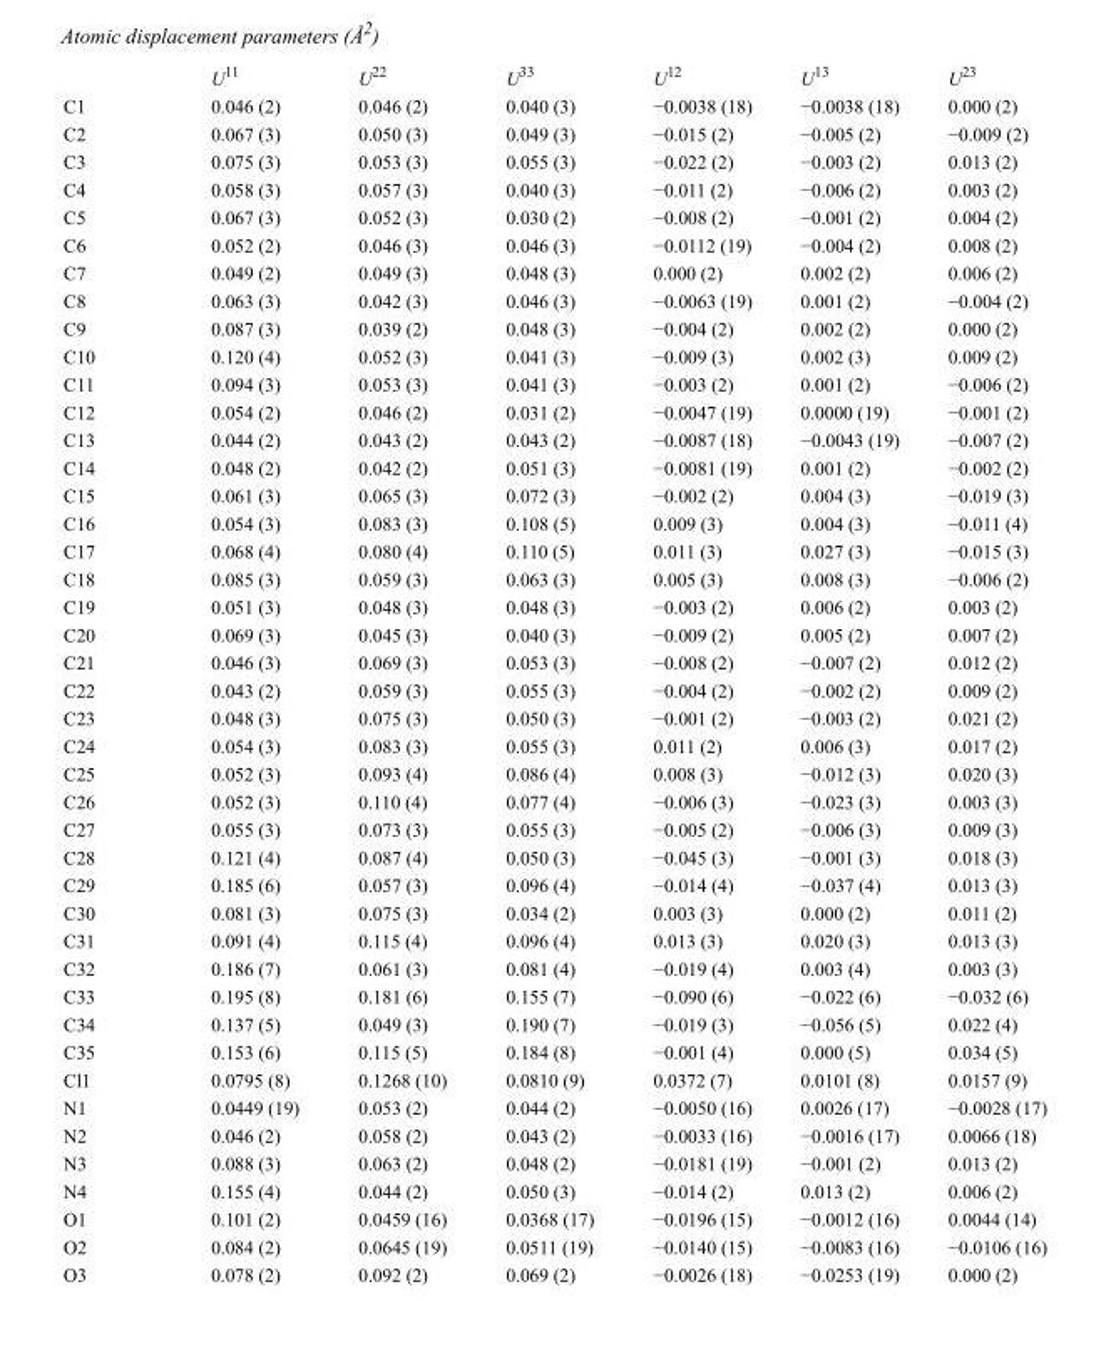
<table><thead><tr><td></td><td>U<sup>11</sup></td><td>U<sup>22</sup></td><td>U<sup>33</sup></td><td>U<sup>12</sup></td><td>U<sup>13</sup></td><td>U<sup>23</sup></td></tr></thead><tbody><tr><td>C1</td><td>0.046 (2)</td><td>0.046 (2)</td><td>0.040 (3)</td><td>−0.0038 (18)</td><td>−0.0038 (18)</td><td>0.000 (2)</td></tr><tr><td>C2</td><td>0.067 (3)</td><td>0.050 (3)</td><td>0.049 (3)</td><td>−0.015 (2)</td><td>−0.005 (2)</td><td>−0.009 (2)</td></tr><tr><td>C3</td><td>0.075 (3)</td><td>0.053 (3)</td><td>0.055 (3)</td><td>−0.022 (2)</td><td>−0.003 (2)</td><td>0.013 (2)</td></tr><tr><td>C4</td><td>0.058 (3)</td><td>0.057 (3)</td><td>0.040 (3)</td><td>−0.011 (2)</td><td>−0.006 (2)</td><td>0.003 (2)</td></tr><tr><td>C5</td><td>0.067 (3)</td><td>0.052 (3)</td><td>0.030 (2)</td><td>−0.008 (2)</td><td>−0.001 (2)</td><td>0.004 (2)</td></tr><tr><td>C6</td><td>0.052 (2)</td><td>0.046 (3)</td><td>0.046 (3)</td><td>−0.0112 (19)</td><td>−0.004 (2)</td><td>0.008 (2)</td></tr><tr><td>C7</td><td>0.049 (2)</td><td>0.049 (3)</td><td>0.048 (3)</td><td>0.000 (2)</td><td>0.002 (2)</td><td>0.006 (2)</td></tr><tr><td>C8</td><td>0.063 (3)</td><td>0.042 (3)</td><td>0.046 (3)</td><td>−0.0063 (19)</td><td>0.001 (2)</td><td>−0.004 (2)</td></tr><tr><td>C9</td><td>0.087 (3)</td><td>0.039 (2)</td><td>0.048 (3)</td><td>−0.004 (2)</td><td>0.002 (2)</td><td>0.000 (2)</td></tr><tr><td>C10</td><td>0.120 (4)</td><td>0.052 (3)</td><td>0.041 (3)</td><td>−0.009 (3)</td><td>0.002 (3)</td><td>0.009 (2)</td></tr><tr><td>C11</td><td>0.094 (3)</td><td>0.053 (3)</td><td>0.041 (3)</td><td>−0.003 (2)</td><td>0.001 (2)</td><td>−0.006 (2)</td></tr><tr><td>C12</td><td>0.054 (2)</td><td>0.046 (2)</td><td>0.031 (2)</td><td>−0.0047 (19)</td><td>0.0000 (19)</td><td>−0.001 (2)</td></tr><tr><td>C13</td><td>0.044 (2)</td><td>0.043 (2)</td><td>0.043 (2)</td><td>−0.0087 (18)</td><td>−0.0043 (19)</td><td>−0.007 (2)</td></tr><tr><td>C14</td><td>0.048 (2)</td><td>0.042 (2)</td><td>0.051 (3)</td><td>−0.0081 (19)</td><td>0.001 (2)</td><td>−0.002 (2)</td></tr><tr><td>C15</td><td>0.061 (3)</td><td>0.065 (3)</td><td>0.072 (3)</td><td>−0.002 (2)</td><td>0.004 (3)</td><td>−0.019 (3)</td></tr><tr><td>C16</td><td>0.054 (3)</td><td>0.083 (3)</td><td>0.108 (5)</td><td>0.009 (3)</td><td>0.004 (3)</td><td>−0.011 (4)</td></tr><tr><td>C17</td><td>0.068 (4)</td><td>0.080 (4)</td><td>0.110 (5)</td><td>0.011 (3)</td><td>0.027 (3)</td><td>−0.015 (3)</td></tr><tr><td>C18</td><td>0.085 (3)</td><td>0.059 (3)</td><td>0.063 (3)</td><td>0.005 (3)</td><td>0.008 (3)</td><td>−0.006 (2)</td></tr><tr><td>C19</td><td>0.051 (3)</td><td>0.048 (3)</td><td>0.048 (3)</td><td>−0.003 (2)</td><td>0.006 (2)</td><td>0.003 (2)</td></tr><tr><td>C20</td><td>0.069 (3)</td><td>0.045 (3)</td><td>0.040 (3)</td><td>−0.009 (2)</td><td>0.005 (2)</td><td>0.007 (2)</td></tr><tr><td>C21</td><td>0.046 (3)</td><td>0.069 (3)</td><td>0.053 (3)</td><td>−0.008 (2)</td><td>−0.007 (2)</td><td>0.012 (2)</td></tr><tr><td>C22</td><td>0.043 (2)</td><td>0.059 (3)</td><td>0.055 (3)</td><td>−0.004 (2)</td><td>−0.002 (2)</td><td>0.009 (2)</td></tr><tr><td>C23</td><td>0.048 (3)</td><td>0.075 (3)</td><td>0.050 (3)</td><td>−0.001 (2)</td><td>−0.003 (2)</td><td>0.021 (2)</td></tr><tr><td>C24</td><td>0.054 (3)</td><td>0.083 (3)</td><td>0.055 (3)</td><td>0.011 (2)</td><td>0.006 (3)</td><td>0.017 (2)</td></tr><tr><td>C25</td><td>0.052 (3)</td><td>0.093 (4)</td><td>0.086 (4)</td><td>0.008 (3)</td><td>−0.012 (3)</td><td>0.020 (3)</td></tr><tr><td>C26</td><td>0.052 (3)</td><td>0.110 (4)</td><td>0.077 (4)</td><td>−0.006 (3)</td><td>−0.023 (3)</td><td>0.003 (3)</td></tr><tr><td>C27</td><td>0.055 (3)</td><td>0.073 (3)</td><td>0.055 (3)</td><td>−0.005 (2)</td><td>−0.006 (3)</td><td>0.009 (3)</td></tr><tr><td>C28</td><td>0.121 (4)</td><td>0.087 (4)</td><td>0.050 (3)</td><td>−0.045 (3)</td><td>−0.001 (3)</td><td>0.018 (3)</td></tr><tr><td>C29</td><td>0.185 (6)</td><td>0.057 (3)</td><td>0.096 (4)</td><td>−0.014 (4)</td><td>−0.037 (4)</td><td>0.013 (3)</td></tr><tr><td>C30</td><td>0.081 (3)</td><td>0.075 (3)</td><td>0.034 (2)</td><td>0.003 (3)</td><td>0.000 (2)</td><td>0.011 (2)</td></tr><tr><td>C31</td><td>0.091 (4)</td><td>0.115 (4)</td><td>0.096 (4)</td><td>0.013 (3)</td><td>0.020 (3)</td><td>0.013 (3)</td></tr><tr><td>C32</td><td>0.186 (7)</td><td>0.061 (3)</td><td>0.081 (4)</td><td>−0.019 (4)</td><td>0.003 (4)</td><td>0.003 (3)</td></tr><tr><td>C33</td><td>0.195 (8)</td><td>0.181 (6)</td><td>0.155 (7)</td><td>−0.090 (6)</td><td>−0.022 (6)</td><td>−0.032 (6)</td></tr><tr><td>C34</td><td>0.137 (5)</td><td>0.049 (3)</td><td>0.190 (7)</td><td>−0.019 (3)</td><td>−0.056 (5)</td><td>0.022 (4)</td></tr><tr><td>C35</td><td>0.153 (6)</td><td>0.115 (5)</td><td>0.184 (8)</td><td>−0.001 (4)</td><td>0.000 (5)</td><td>0.034 (5)</td></tr><tr><td>Cl1</td><td>0.0795 (8)</td><td>0.1268 (10)</td><td>0.0810 (9)</td><td>0.0372 (7)</td><td>0.0101 (8)</td><td>0.0157 (9)</td></tr><tr><td>N1</td><td>0.0449 (19)</td><td>0.053 (2)</td><td>0.044 (2)</td><td>−0.0050 (16)</td><td>0.0026 (17)</td><td>−0.0028 (17)</td></tr><tr><td>N2</td><td>0.046 (2)</td><td>0.058 (2)</td><td>0.043 (2)</td><td>−0.0033 (16)</td><td>−0.0016 (17)</td><td>0.0066 (18)</td></tr><tr><td>N3</td><td>0.088 (3)</td><td>0.063 (2)</td><td>0.048 (2)</td><td>−0.0181 (19)</td><td>−0.001 (2)</td><td>0.013 (2)</td></tr><tr><td>N4</td><td>0.155 (4)</td><td>0.044 (2)</td><td>0.050 (3)</td><td>−0.014 (2)</td><td>0.013 (2)</td><td>0.006 (2)</td></tr><tr><td>O1</td><td>0.101 (2)</td><td>0.0459 (16)</td><td>0.0368 (17)</td><td>−0.0196 (15)</td><td>−0.0012 (16)</td><td>0.0044 (14)</td></tr><tr><td>O2</td><td>0.084 (2)</td><td>0.0645 (19)</td><td>0.0511 (19)</td><td>−0.0140 (15)</td><td>−0.0083 (16)</td><td>−0.0106 (16)</td></tr><tr><td>O3</td><td>0.078 (2)</td><td>0.092 (2)</td><td>0.069 (2)</td><td>−0.0026 (18)</td><td>−0.0253 (19)</td><td>0.000 (2)</td></tr></tbody></table>